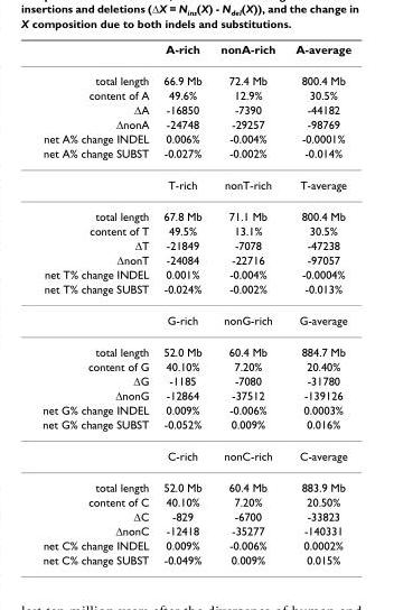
<table><thead><tr><td></td><td>A-rich</td><td>nonA-rich</td><td>A-average</td></tr></thead><tbody><tr><td>total length</td><td>66.9 Mb</td><td>72.4 Mb</td><td>800.4 Mb</td></tr><tr><td>content of A</td><td>49.6%</td><td>12.9%</td><td>30.5%</td></tr><tr><td>ΔA</td><td>-16850</td><td>-7390</td><td>-44182</td></tr><tr><td>ΔnonA</td><td>-24748</td><td>-29257</td><td>-98769</td></tr><tr><td>net A% change INDEL</td><td>0.006%</td><td>-0.004%</td><td>-0.0001%</td></tr><tr><td rowspan="2">net A% change SUBST</td><td>-0.027%</td><td>-0.002%</td><td>-0.014%</td></tr><tr><td>T-rich</td><td>nonT-rich</td><td>T-average</td></tr><tr><td>total length</td><td>67.8 Mb</td><td>71.1 Mb</td><td>800.4 Mb</td></tr><tr><td>content of T</td><td>49.5%</td><td>13.1%</td><td>30.5%</td></tr><tr><td>ΔT</td><td>-21849</td><td>-7078</td><td>-47238</td></tr><tr><td>ΔnonT</td><td>-24084</td><td>-22716</td><td>-97057</td></tr><tr><td>net T% change INDEL</td><td>0.001%</td><td>-0.004%</td><td>-0.0004%</td></tr><tr><td rowspan="2">net T% change SUBST</td><td>-0.024%</td><td>-0.002%</td><td>-0.013%</td></tr><tr><td>G-rich</td><td>nonG-rich</td><td>G-average</td></tr><tr><td>total length</td><td>52.0 Mb</td><td>60.4 Mb</td><td>884.7 Mb</td></tr><tr><td>content of G</td><td>40.10%</td><td>7.20%</td><td>20.40%</td></tr><tr><td>ΔG</td><td>-1185</td><td>-7080</td><td>-31780</td></tr><tr><td>ΔnonG</td><td>-12864</td><td>-37512</td><td>-139126</td></tr><tr><td>net G% change INDEL</td><td>0.009%</td><td>-0.006%</td><td>0.0003%</td></tr><tr><td rowspan="2">net G% change SUBST</td><td>-0.052%</td><td>0.009%</td><td>0.016%</td></tr><tr><td>C-rich</td><td>nonC-rich</td><td>C-average</td></tr><tr><td>total length</td><td>52.0 Mb</td><td>60.4 Mb</td><td>883.9 Mb</td></tr><tr><td>content of C</td><td>40.10%</td><td>7.20%</td><td>20.50%</td></tr><tr><td>ΔC</td><td>-829</td><td>-6700</td><td>-33823</td></tr><tr><td>ΔnonC</td><td>-12418</td><td>-35277</td><td>-140331</td></tr><tr><td>net C% change INDEL</td><td>0.009%</td><td>-0.006%</td><td>0.0002%</td></tr><tr><td>net C% change SUBST</td><td>-0.049%</td><td>0.009%</td><td>0.015%</td></tr></tbody></table>